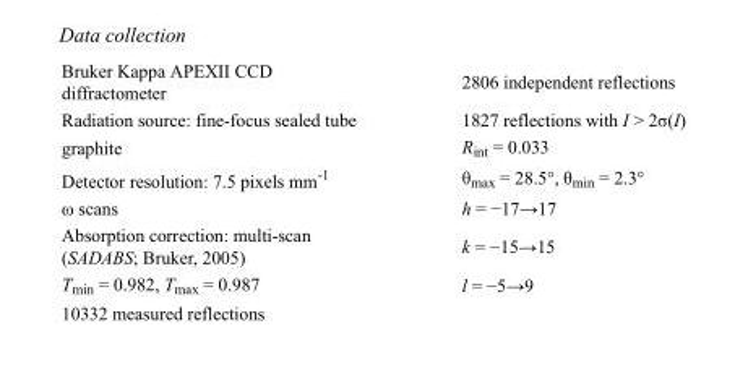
<table><tbody><tr><td>Bruker Kappa APEXII CCD diffractometer</td><td>2806 independent reflections</td></tr><tr><td>Radiation source: fine-focus sealed tube</td><td>1827 reflections with I &gt; 2σ(I)</td></tr><tr><td>graphite</td><td>R<sub>int</sub> = 0.033</td></tr><tr><td>Detector resolution: 7.5 pixels mm<sup>-1</sup></td><td>θ<sub>max</sub> = 28.5°, θ<sub>min</sub> = 2.3°</td></tr><tr><td>ω scans</td><td>h = −17→17</td></tr><tr><td>Absorption correction: multi-scan (SADABS; Bruker, 2005)</td><td>k = −15→15</td></tr><tr><td>T<sub>min</sub> = 0.982, T<sub>max</sub> = 0.987</td><td>l = −5→9</td></tr><tr><td>10332 measured reflections</td><td></td></tr></tbody></table>